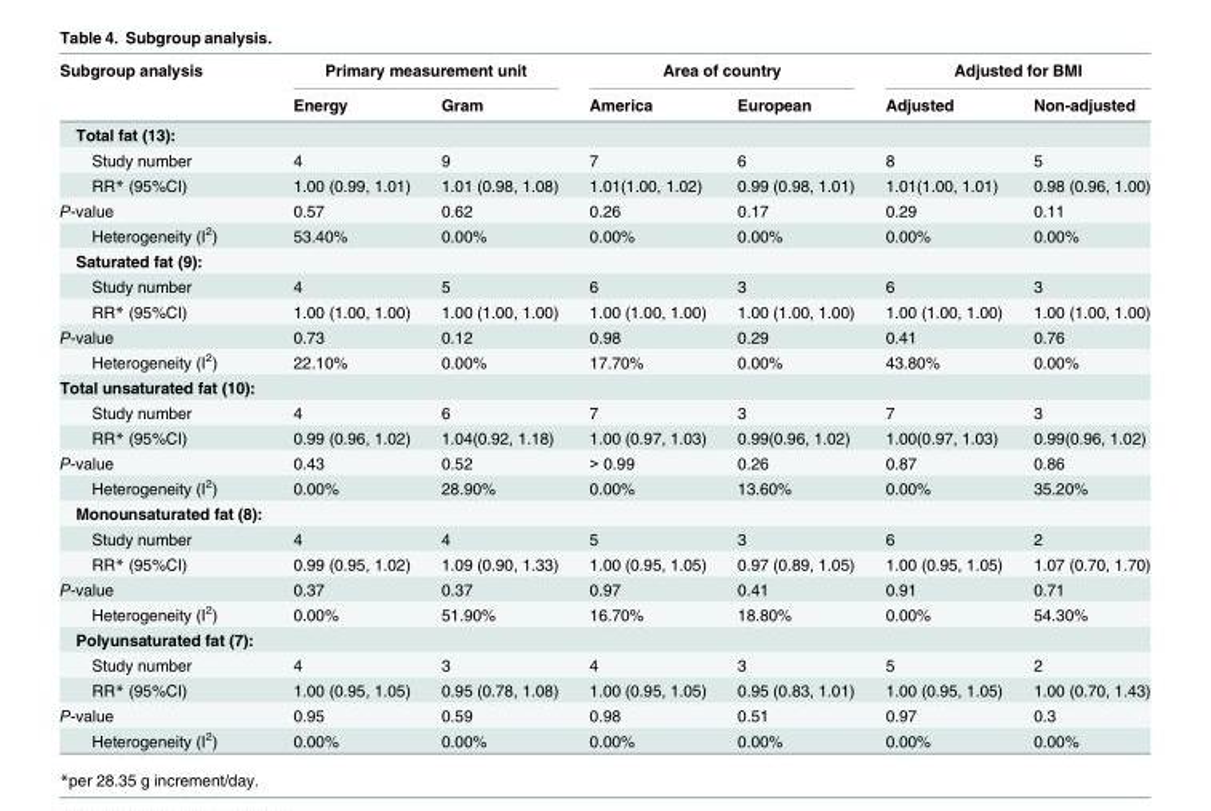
<table><thead><tr><td rowspan="2">Subgroup analysis</td><td colspan="2">Primary measurement unit</td><td colspan="2">Area of country</td><td colspan="2">Adjusted for BMI</td></tr><tr><td>Energy</td><td>Gram</td><td>America</td><td>European</td><td>Adjusted</td><td>Non-adjusted</td></tr></thead><tbody><tr><td colspan="7">Total fat (13):</td></tr><tr><td>Study number</td><td>4</td><td>9</td><td>7</td><td>6</td><td>8</td><td>5</td></tr><tr><td>RR* (95%CI)</td><td>1.00 (0.99, 1.01)</td><td>1.01 (0.98, 1.08)</td><td>1.01(1.00, 1.02)</td><td>0.99 (0.98, 1.01)</td><td>1.01(1.00, 1.01)</td><td>0.98 (0.96, 1.00)</td></tr><tr><td>P-value</td><td>0.57</td><td>0.62</td><td>0.26</td><td>0.17</td><td>0.29</td><td>0.11</td></tr><tr><td>Heterogeneity (I<sup>2</sup>)</td><td>53.40%</td><td>0.00%</td><td>0.00%</td><td>0.00%</td><td>0.00%</td><td>0.00%</td></tr><tr><td colspan="7">Saturated fat (9):</td></tr><tr><td>Study number</td><td>4</td><td>5</td><td>6</td><td>3</td><td>6</td><td>3</td></tr><tr><td>RR* (95%CI)</td><td>1.00 (1.00, 1.00)</td><td>1.00 (1.00, 1.00)</td><td>1.00 (1.00, 1.00)</td><td>1.00 (1.00, 1.00)</td><td>1.00 (1.00, 1.00)</td><td>1.00 (1.00, 1.00)</td></tr><tr><td>P-value</td><td>0.73</td><td>0.12</td><td>0.98</td><td>0.29</td><td>0.41</td><td>0.76</td></tr><tr><td>Heterogeneity (I<sup>2</sup>)</td><td>22.10%</td><td>0.00%</td><td>17.70%</td><td>0.00%</td><td>43.80%</td><td>0.00%</td></tr><tr><td colspan="7">Total unsaturated fat (10):</td></tr><tr><td>Study number</td><td>4</td><td>6</td><td>7</td><td>3</td><td>7</td><td>3</td></tr><tr><td>RR* (95%CI)</td><td>0.99 (0.96, 1.02)</td><td>1.04(0.92, 1.18)</td><td>1.00 (0.97, 1.03)</td><td>0.99(0.96, 1.02)</td><td>1.00(0.97, 1.03)</td><td>0.99(0.96, 1.02)</td></tr><tr><td>P-value</td><td>0.43</td><td>0.52</td><td>&gt; 0.99</td><td>0.26</td><td>0.87</td><td>0.86</td></tr><tr><td>Heterogeneity (I<sup>2</sup>)</td><td>0.00%</td><td>28.90%</td><td>0.00%</td><td>13.60%</td><td>0.00%</td><td>35.20%</td></tr><tr><td colspan="7">Monounsaturated fat (8):</td></tr><tr><td>Study number</td><td>4</td><td>4</td><td>5</td><td>3</td><td>6</td><td>2</td></tr><tr><td>RR* (95%CI)</td><td>0.99 (0.95, 1.02)</td><td>1.09 (0.90, 1.33)</td><td>1.00 (0.95, 1.05)</td><td>0.97 (0.89, 1.05)</td><td>1.00 (0.95, 1.05)</td><td>1.07 (0.70, 1.70)</td></tr><tr><td>P-value</td><td>0.37</td><td>0.37</td><td>0.97</td><td>0.41</td><td>0.91</td><td>0.71</td></tr><tr><td>Heterogeneity (I<sup>2</sup>)</td><td>0.00%</td><td>51.90%</td><td>16.70%</td><td>18.80%</td><td>0.00%</td><td>54.30%</td></tr><tr><td colspan="7">Polyunsaturated fat (7):</td></tr><tr><td>Study number</td><td>4</td><td>3</td><td>4</td><td>3</td><td>5</td><td>2</td></tr><tr><td>RR* (95%CI)</td><td>1.00 (0.95, 1.05)</td><td>0.95 (0.78, 1.08)</td><td>1.00 (0.95, 1.05)</td><td>0.95 (0.83, 1.01)</td><td>1.00 (0.95, 1.05)</td><td>1.00 (0.70, 1.43)</td></tr><tr><td>P-value</td><td>0.95</td><td>0.59</td><td>0.98</td><td>0.51</td><td>0.97</td><td>0.3</td></tr><tr><td>Heterogeneity (I<sup>2</sup>)</td><td>0.00%</td><td>0.00%</td><td>0.00%</td><td>0.00%</td><td>0.00%</td><td>0.00%</td></tr></tbody></table>